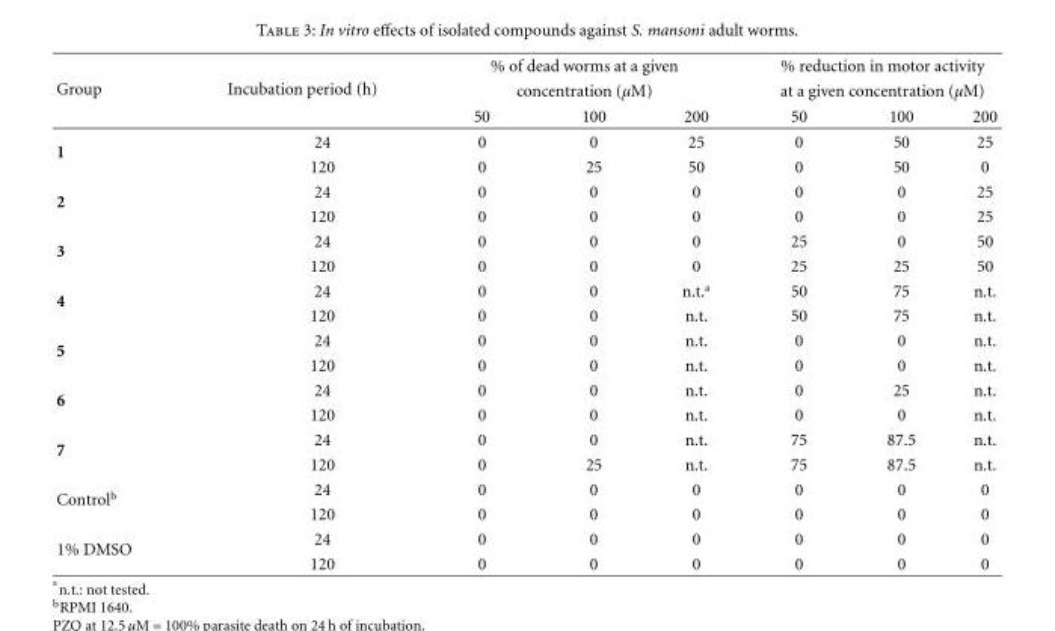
<table><thead><tr><td rowspan="3">Group</td><td rowspan="3">Incubation period (h)</td><td rowspan="2" colspan="3">% of dead worms at a given concentration (μM)</td><td rowspan="2" colspan="3">% reduction in motor activity at a given concentration (μM)</td></tr><tr></tr><tr><td>50</td><td>100</td><td>200</td><td>50</td><td>100</td><td>200</td></tr></thead><tbody><tr><td rowspan="2">1</td><td>24</td><td>0</td><td>0</td><td>25</td><td>0</td><td>50</td><td>25</td></tr><tr><td>120</td><td>0</td><td>25</td><td>50</td><td>0</td><td>50</td><td>0</td></tr><tr><td rowspan="2">2</td><td>24</td><td>0</td><td>0</td><td>0</td><td>0</td><td>0</td><td>25</td></tr><tr><td>120</td><td>0</td><td>0</td><td>0</td><td>0</td><td>0</td><td>25</td></tr><tr><td rowspan="2">3</td><td>24</td><td>0</td><td>0</td><td>0</td><td>25</td><td>0</td><td>50</td></tr><tr><td>120</td><td>0</td><td>0</td><td>0</td><td>25</td><td>25</td><td>50</td></tr><tr><td rowspan="2">4</td><td>24</td><td>0</td><td>0</td><td>n.t.<sup>a</sup></td><td>50</td><td>75</td><td>n.t.</td></tr><tr><td>120</td><td>0</td><td>0</td><td>n.t.</td><td>50</td><td>75</td><td>n.t.</td></tr><tr><td rowspan="2">5</td><td>24</td><td>0</td><td>0</td><td>n.t.</td><td>0</td><td>0</td><td>n.t.</td></tr><tr><td>120</td><td>0</td><td>0</td><td>n.t.</td><td>0</td><td>0</td><td>n.t.</td></tr><tr><td rowspan="2">6</td><td>24</td><td>0</td><td>0</td><td>n.t.</td><td>0</td><td>25</td><td>n.t.</td></tr><tr><td>120</td><td>0</td><td>0</td><td>n.t.</td><td>0</td><td>0</td><td>n.t.</td></tr><tr><td rowspan="2">7</td><td>24</td><td>0</td><td>0</td><td>n.t.</td><td>75</td><td>87.5</td><td>n.t.</td></tr><tr><td>120</td><td>0</td><td>25</td><td>n.t.</td><td>75</td><td>87.5</td><td>n.t.</td></tr><tr><td rowspan="2">Control<sup>b</sup></td><td>24</td><td>0</td><td>0</td><td>0</td><td>0</td><td>0</td><td>0</td></tr><tr><td>120</td><td>0</td><td>0</td><td>0</td><td>0</td><td>0</td><td>0</td></tr><tr><td rowspan="2">1% DMSO</td><td>24</td><td>0</td><td>0</td><td>0</td><td>0</td><td>0</td><td>0</td></tr><tr><td>120</td><td>0</td><td>0</td><td>0</td><td>0</td><td>0</td><td>0</td></tr></tbody></table>